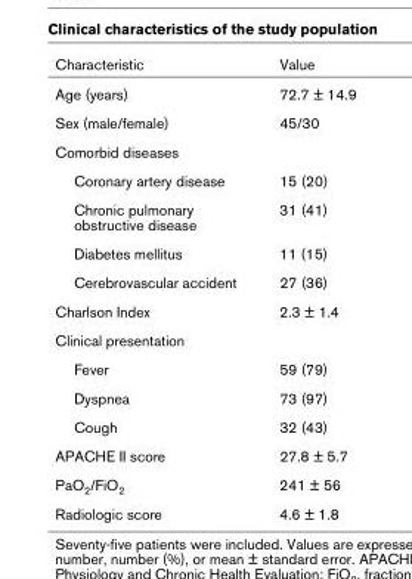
<table><thead><tr><td>Characteristic</td><td>Value</td></tr></thead><tbody><tr><td>Age (years)</td><td>72.7 ± 14.9</td></tr><tr><td>Sex (male/female)</td><td>45/30</td></tr><tr><td colspan="2">Comorbid diseases</td></tr><tr><td>Coronary artery disease</td><td>15 (20)</td></tr><tr><td>Chronic pulmonary obstructive disease</td><td>31 (41)</td></tr><tr><td>Diabetes mellitus</td><td>11 (15)</td></tr><tr><td>Cerebrovascular accident</td><td>27 (36)</td></tr><tr><td>Charlson Index</td><td>2.3 ± 1.4</td></tr><tr><td colspan="2">Clinical presentation</td></tr><tr><td>Fever</td><td>59 (79)</td></tr><tr><td>Dyspnea</td><td>73 (97)</td></tr><tr><td>Cough</td><td>32 (43)</td></tr><tr><td>APACHE II score</td><td>27.8 ± 5.7</td></tr><tr><td>PaO<sub>2</sub>/FiO<sub>2</sub></td><td>241 ± 56</td></tr><tr><td>Radiologic score</td><td>4.6 ± 1.8</td></tr></tbody></table>